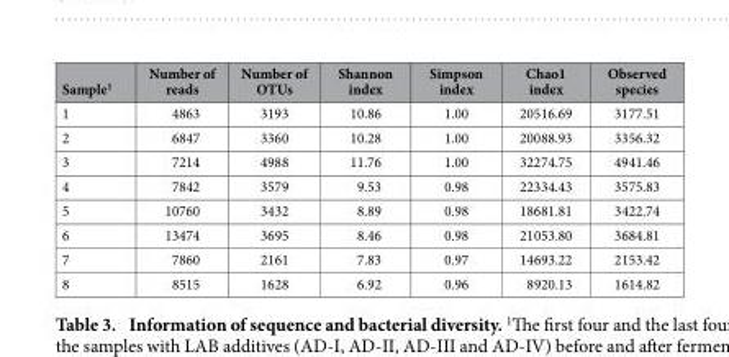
<table><thead><tr><td>Sample<sup>1</sup></td><td>Number of reads</td><td>Number of OTUs</td><td>Shannon index</td><td>Simpson index</td><td>Chao1 index</td><td>Observed species</td></tr></thead><tbody><tr><td>1</td><td>4863</td><td>3193</td><td>10.86</td><td>1.00</td><td>20516.69</td><td>3177.51</td></tr><tr><td>2</td><td>6847</td><td>3360</td><td>10.28</td><td>1.00</td><td>20088.93</td><td>3356.32</td></tr><tr><td>3</td><td>7214</td><td>4988</td><td>11.76</td><td>1.00</td><td>32274.75</td><td>4941.46</td></tr><tr><td>4</td><td>7842</td><td>3579</td><td>9.53</td><td>0.98</td><td>22334.43</td><td>3575.83</td></tr><tr><td>5</td><td>10760</td><td>3432</td><td>8.89</td><td>0.98</td><td>18681.81</td><td>3422.74</td></tr><tr><td>6</td><td>13474</td><td>3695</td><td>8.46</td><td>0.98</td><td>21053.80</td><td>3684.81</td></tr><tr><td>7</td><td>7860</td><td>2161</td><td>7.83</td><td>0.97</td><td>14693.22</td><td>2153.42</td></tr><tr><td>8</td><td>8515</td><td>1628</td><td>6.92</td><td>0.96</td><td>8920.13</td><td>1614.82</td></tr></tbody></table>